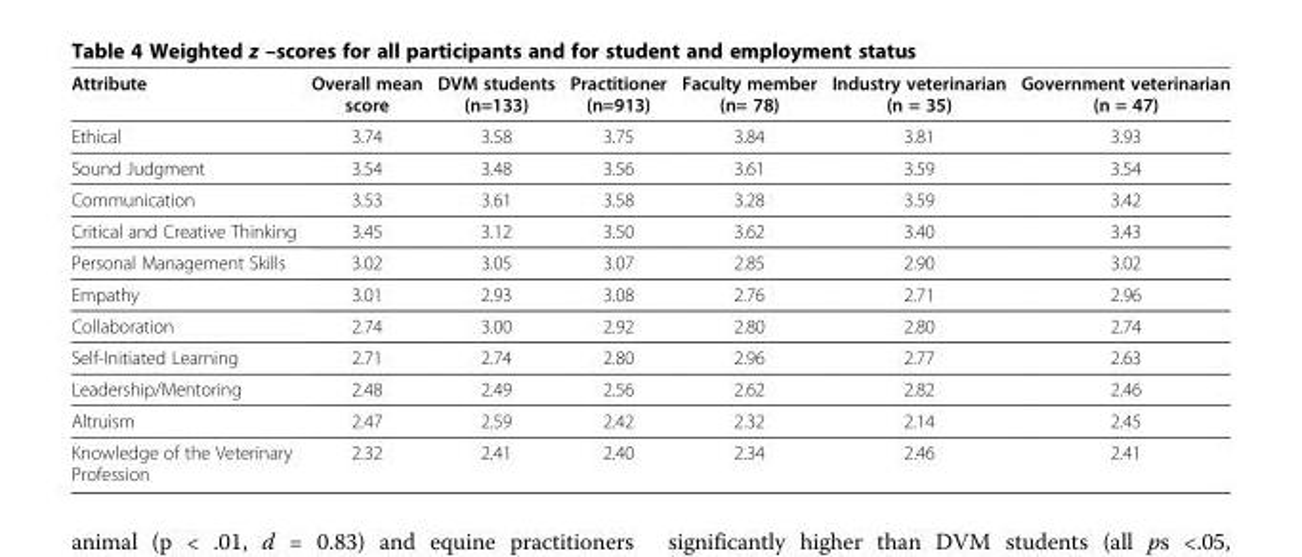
<table><thead><tr><td>Attribute</td><td>Overall mean score</td><td>DVM students (n=133)</td><td>Practitioner (n=913)</td><td>Faculty member (n= 78)</td><td>Industry veterinarian (n = 35)</td><td>Government veterinarian (n = 47)</td></tr></thead><tbody><tr><td>Ethical</td><td>3.74</td><td>3.58</td><td>3.75</td><td>3.84</td><td>3.81</td><td>3.93</td></tr><tr><td>Sound Judgment</td><td>3.54</td><td>3.48</td><td>3.56</td><td>3.61</td><td>3.59</td><td>3.54</td></tr><tr><td>Communication</td><td>3.53</td><td>3.61</td><td>3.58</td><td>3.28</td><td>3.59</td><td>3.42</td></tr><tr><td>Critical and Creative Thinking</td><td>3.45</td><td>3.12</td><td>3.50</td><td>3.62</td><td>3.40</td><td>3.43</td></tr><tr><td>Personal Management Skills</td><td>3.02</td><td>3.05</td><td>3.07</td><td>2.85</td><td>2.90</td><td>3.02</td></tr><tr><td>Empathy</td><td>3.01</td><td>2.93</td><td>3.08</td><td>2.76</td><td>2.71</td><td>2.96</td></tr><tr><td>Collaboration</td><td>2.74</td><td>3.00</td><td>2.92</td><td>2.80</td><td>2.80</td><td>2.74</td></tr><tr><td>Self-Initiated Learning</td><td>2.71</td><td>2.74</td><td>2.80</td><td>2.96</td><td>2.77</td><td>2.63</td></tr><tr><td>Leadership/Mentoring</td><td>2.48</td><td>2.49</td><td>2.56</td><td>2.62</td><td>2.82</td><td>2.46</td></tr><tr><td>Altruism</td><td>2.47</td><td>2.59</td><td>2.42</td><td>2.32</td><td>2.14</td><td>2.45</td></tr><tr><td>Knowledge of the Veterinary Profession</td><td>2.32</td><td>2.41</td><td>2.40</td><td>2.34</td><td>2.46</td><td>2.41</td></tr></tbody></table>